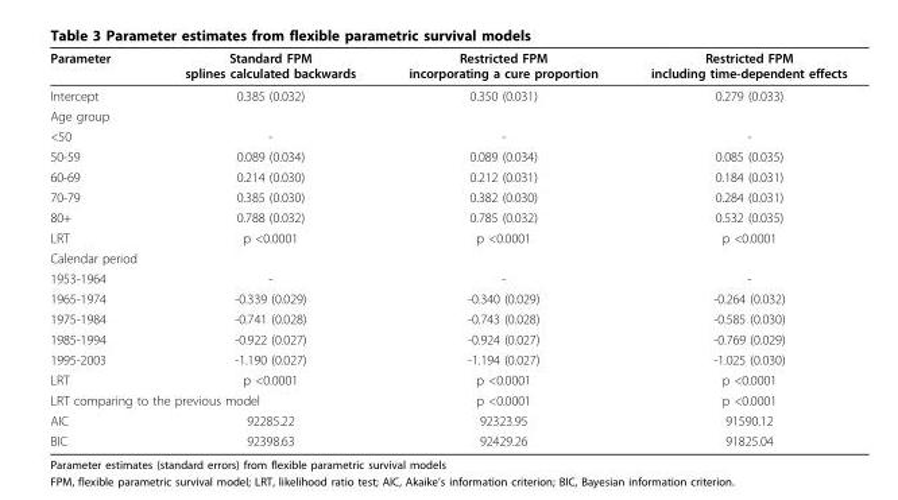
<table><thead><tr><td>Parameter</td><td>Standard FPM splines calculated backwards</td><td>Restricted FPM incorporating a cure proportion</td><td>Restricted FPM including time-dependent effects</td></tr></thead><tbody><tr><td>Intercept</td><td>0.385 (0.032)</td><td>0.350 (0.031)</td><td>0.279 (0.033)</td></tr><tr><td colspan="4">Age group</td></tr><tr><td>&lt;50</td><td>-</td><td>-</td><td>-</td></tr><tr><td>50-59</td><td>0.089 (0.034)</td><td>0.089 (0.034)</td><td>0.085 (0.035)</td></tr><tr><td>60-69</td><td>0.214 (0.030)</td><td>0.212 (0.031)</td><td>0.184 (0.031)</td></tr><tr><td>70-79</td><td>0.385 (0.030)</td><td>0.382 (0.030)</td><td>0.284 (0.031)</td></tr><tr><td>80+</td><td>0.788 (0.032)</td><td>0.785 (0.032)</td><td>0.532 (0.035)</td></tr><tr><td>LRT</td><td>p &lt;0.0001</td><td>p &lt;0.0001</td><td>p &lt;0.0001</td></tr><tr><td colspan="4">Calendar period</td></tr><tr><td>1953-1964</td><td>-</td><td>-</td><td>-</td></tr><tr><td>1965-1974</td><td>-0.339 (0.029)</td><td>-0.340 (0.029)</td><td>-0.264 (0.032)</td></tr><tr><td>1975-1984</td><td>-0.741 (0.028)</td><td>-0.743 (0.028)</td><td>-0.585 (0.030)</td></tr><tr><td>1985-1994</td><td>-0.922 (0.027)</td><td>-0.924 (0.027)</td><td>-0.769 (0.029)</td></tr><tr><td>1995-2003</td><td>-1.190 (0.027)</td><td>-1.194 (0.027)</td><td>-1.025 (0.030)</td></tr><tr><td>LRT</td><td>p &lt;0.0001</td><td>p &lt;0.0001</td><td>p &lt;0.0001</td></tr><tr><td colspan="2">LRT comparing to the previous model</td><td>p &lt;0.0001</td><td>p &lt;0.0001</td></tr><tr><td>AIC</td><td>92285.22</td><td>92323.95</td><td>91590.12</td></tr><tr><td>BIC</td><td>92398.63</td><td>92429.26</td><td>91825.04</td></tr></tbody></table>